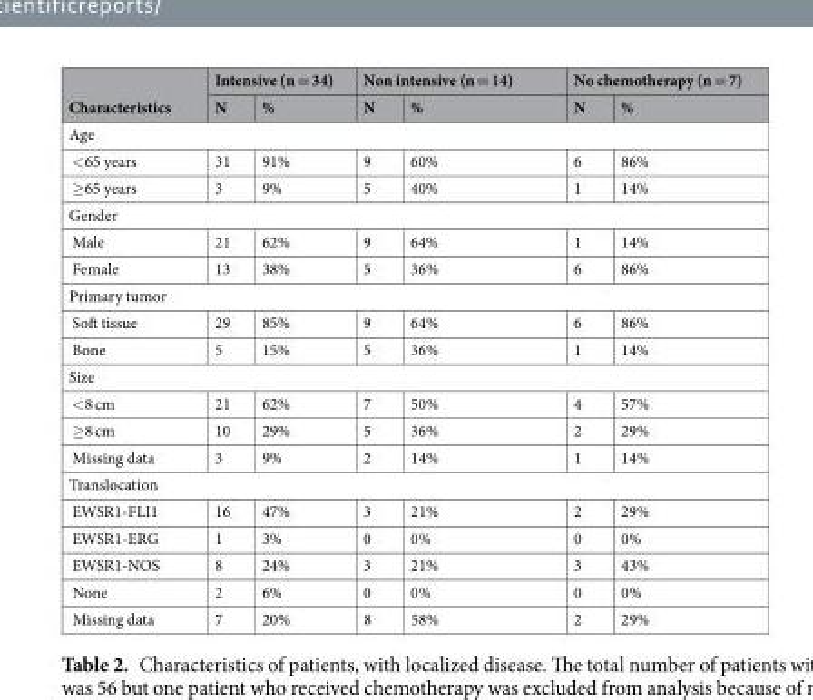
<table><thead><tr><td rowspan="2">Characteristics</td><td colspan="2">Intensive (n = 34)</td><td colspan="2">Non intensive (n = 14)</td><td colspan="2">No chemotherapy (n = 7)</td></tr><tr><td>N</td><td>%</td><td>N</td><td>%</td><td>N</td><td>%</td></tr></thead><tbody><tr><td colspan="7">Age</td></tr><tr><td>&lt;65 years</td><td>31</td><td>91%</td><td>9</td><td>60%</td><td>6</td><td>86%</td></tr><tr><td>≥65 years</td><td>3</td><td>9%</td><td>5</td><td>40%</td><td>1</td><td>14%</td></tr><tr><td colspan="7">Gender</td></tr><tr><td>Male</td><td>21</td><td>62%</td><td>9</td><td>64%</td><td>1</td><td>14%</td></tr><tr><td>Female</td><td>13</td><td>38%</td><td>5</td><td>36%</td><td>6</td><td>86%</td></tr><tr><td colspan="7">Primary tumor</td></tr><tr><td>Soft tissue</td><td>29</td><td>85%</td><td>9</td><td>64%</td><td>6</td><td>86%</td></tr><tr><td>Bone</td><td>5</td><td>15%</td><td>5</td><td>36%</td><td>1</td><td>14%</td></tr><tr><td colspan="7">Size</td></tr><tr><td>&lt;8 cm</td><td>21</td><td>62%</td><td>7</td><td>50%</td><td>4</td><td>57%</td></tr><tr><td>≥8 cm</td><td>10</td><td>29%</td><td>5</td><td>36%</td><td>2</td><td>29%</td></tr><tr><td>Missing data</td><td>3</td><td>9%</td><td>2</td><td>14%</td><td>1</td><td>14%</td></tr><tr><td colspan="7">Translocation</td></tr><tr><td>EWSR1-FLI1</td><td>16</td><td>47%</td><td>3</td><td>21%</td><td>2</td><td>29%</td></tr><tr><td>EWSR1-ERG</td><td>1</td><td>3%</td><td>0</td><td>0%</td><td>0</td><td>0%</td></tr><tr><td>EWSR1-NOS</td><td>8</td><td>24%</td><td>3</td><td>21%</td><td>3</td><td>43%</td></tr><tr><td>None</td><td>2</td><td>6%</td><td>0</td><td>0%</td><td>0</td><td>0%</td></tr><tr><td>Missing data</td><td>7</td><td>20%</td><td>8</td><td>58%</td><td>2</td><td>29%</td></tr></tbody></table>